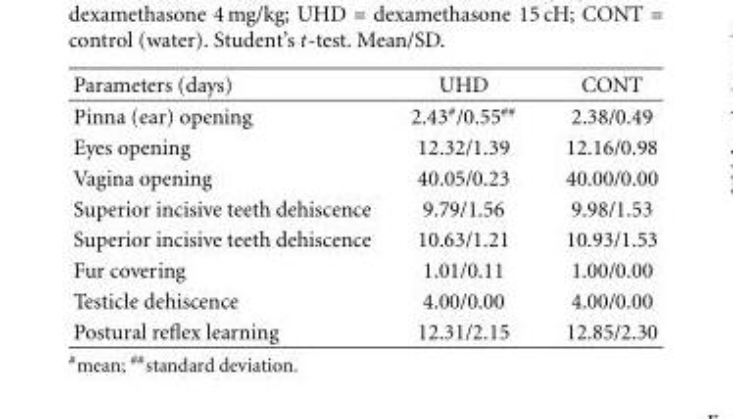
<table><thead><tr><td>Parameters (days)</td><td>UHD</td><td>CONT</td></tr></thead><tbody><tr><td>Pinna (ear) opening</td><td>2.43<sup>#</sup>/0.55<sup>##</sup></td><td>2.38/0.49</td></tr><tr><td>Eyes opening</td><td>12.32/1.39</td><td>12.16/0.98</td></tr><tr><td>Vagina opening</td><td>40.05/0.23</td><td>40.00/0.00</td></tr><tr><td>Superior incisive teeth dehiscence</td><td>9.79/1.56</td><td>9.98/1.53</td></tr><tr><td>Superior incisive teeth dehiscence</td><td>10.63/1.21</td><td>10.93/1.53</td></tr><tr><td>Fur covering</td><td>1.01/0.11</td><td>1.00/0.00</td></tr><tr><td>Testicle dehiscence</td><td>4.00/0.00</td><td>4.00/0.00</td></tr><tr><td>Postural reflex learning</td><td>12.31/2.15</td><td>12.85/2.30</td></tr></tbody></table>